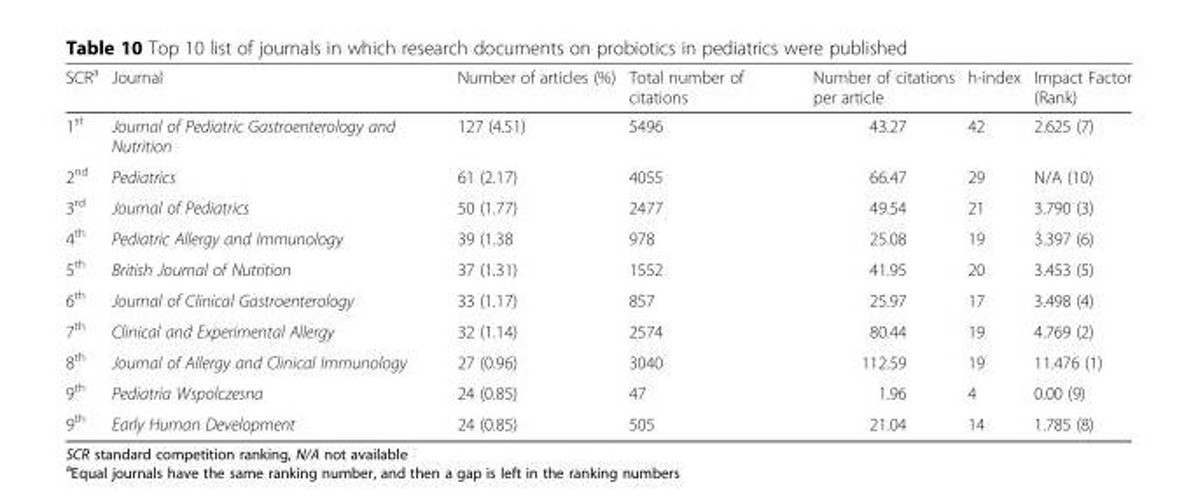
<table><thead><tr><td>SCR<sup>a</sup></td><td>Journal</td><td>Number of articles (%)</td><td>Total number of citations</td><td>Number of citations per article</td><td>h-index</td><td>Impact Factor (Rank)</td></tr></thead><tbody><tr><td>1<sup>st</sup></td><td>Journal of Pediatric Gastroenterology and Nutrition</td><td>127 (4.51)</td><td>5496</td><td>43.27</td><td>42</td><td>2.625 (7)</td></tr><tr><td>2<sup>nd</sup></td><td>Pediatrics</td><td>61 (2.17)</td><td>4055</td><td>66.47</td><td>29</td><td>N/A (10)</td></tr><tr><td>3<sup>rd</sup></td><td>Journal of Pediatrics</td><td>50 (1.77)</td><td>2477</td><td>49.54</td><td>21</td><td>3.790 (3)</td></tr><tr><td>4<sup>th</sup></td><td>Pediatric Allergy and Immunology</td><td>39 (1.38</td><td>978</td><td>25.08</td><td>19</td><td>3.397 (6)</td></tr><tr><td>5<sup>th</sup></td><td>British Journal of Nutrition</td><td>37 (1.31)</td><td>1552</td><td>41.95</td><td>20</td><td>3.453 (5)</td></tr><tr><td>6<sup>th</sup></td><td>Journal of Clinical Gastroenterology</td><td>33 (1.17)</td><td>857</td><td>25.97</td><td>17</td><td>3.498 (4)</td></tr><tr><td>7<sup>th</sup></td><td>Clinical and Experimental Allergy</td><td>32 (1.14)</td><td>2574</td><td>80.44</td><td>19</td><td>4.769 (2)</td></tr><tr><td>8<sup>th</sup></td><td>Journal of Allergy and Clinical Immunology</td><td>27 (0.96)</td><td>3040</td><td>112.59</td><td>19</td><td>11.476 (1)</td></tr><tr><td>9<sup>th</sup></td><td>Pediatria Wspolczesna</td><td>24 (0.85)</td><td>47</td><td>1.96</td><td>4</td><td>0.00 (9)</td></tr><tr><td>9<sup>th</sup></td><td>Early Human Development</td><td>24 (0.85)</td><td>505</td><td>21.04</td><td>14</td><td>1.785 (8)</td></tr></tbody></table>